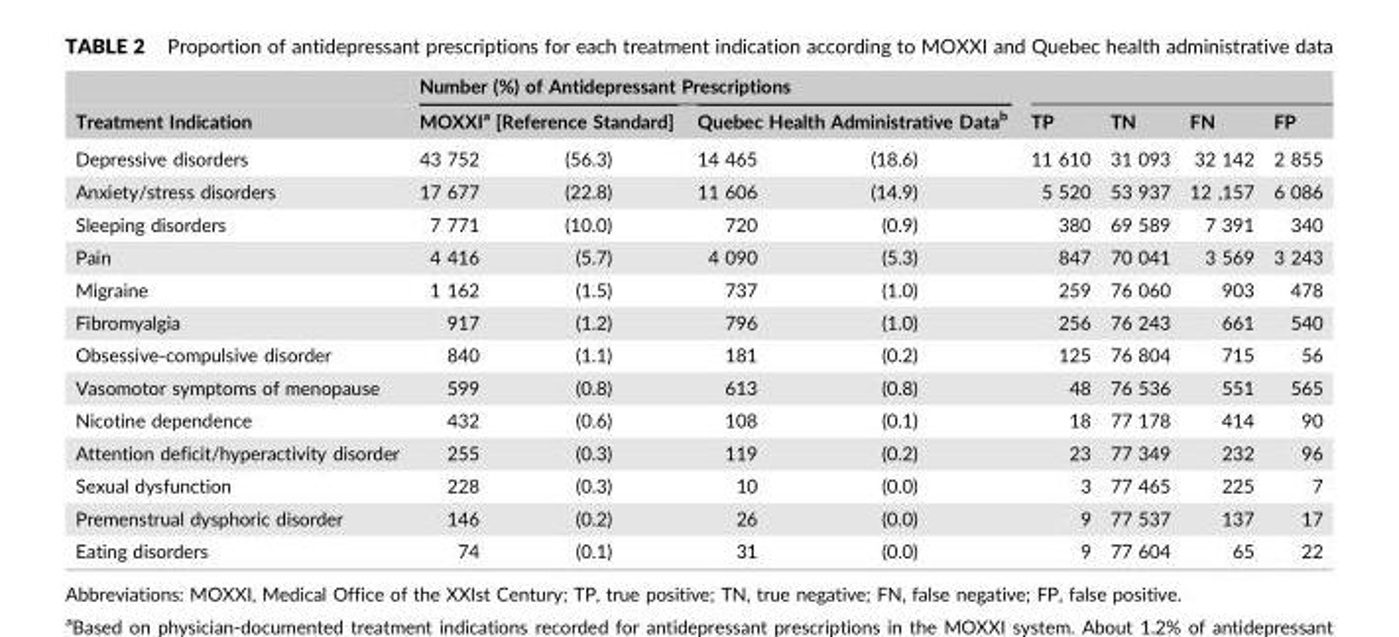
<table><thead><tr><td rowspan="3">Treatment Indication Depressive disorders</td><td colspan="4">Number (%) of Antidepressant Prescriptions</td><td rowspan="3">TP 11 610</td><td rowspan="3">TN 31 093</td><td rowspan="3">FN 32 142</td><td rowspan="3">FP 2 855</td></tr><tr><td colspan="2">MOXXI<sup>a</sup> [Reference Standard]</td><td colspan="2">Quebec Health Administrative Data<sup>b</sup></td></tr><tr><td>43 752</td><td>(56.3)</td><td>14 465</td><td>(18.6)</td></tr></thead><tbody><tr><td>Anxiety/stress disorders</td><td>17 677</td><td>(22.8)</td><td>11 606</td><td>(14.9)</td><td>5 520</td><td>53 937</td><td>12 ,157</td><td>6 086</td></tr><tr><td>Sleeping disorders</td><td>7 771</td><td>(10.0)</td><td>720</td><td>(0.9)</td><td>380</td><td>69 589</td><td>7 391</td><td>340</td></tr><tr><td>Pain</td><td>4 416</td><td>(5.7)</td><td>4 090</td><td>(5.3)</td><td>847</td><td>70 041</td><td>3 569</td><td>3 243</td></tr><tr><td>Migraine</td><td>1 162</td><td>(1.5)</td><td>737</td><td>(1.0)</td><td>259</td><td>76 060</td><td>903</td><td>478</td></tr><tr><td>Fibromyalgia</td><td>917</td><td>(1.2)</td><td>796</td><td>(1.0)</td><td>256</td><td>76 243</td><td>661</td><td>540</td></tr><tr><td>Obsessive‐compulsive disorder</td><td>840</td><td>(1.1)</td><td>181</td><td>(0.2)</td><td>125</td><td>76 804</td><td>715</td><td>56</td></tr><tr><td>Vasomotor symptoms of menopause</td><td>599</td><td>(0.8)</td><td>613</td><td>(0.8)</td><td>48</td><td>76 536</td><td>551</td><td>565</td></tr><tr><td>Nicotine dependence</td><td>432</td><td>(0.6)</td><td>108</td><td>(0.1)</td><td>18</td><td>77 178</td><td>414</td><td>90</td></tr><tr><td>Attention deficit/hyperactivity disorder</td><td>255</td><td>(0.3)</td><td>119</td><td>(0.2)</td><td>23</td><td>77 349</td><td>232</td><td>96</td></tr><tr><td>Sexual dysfunction</td><td>228</td><td>(0.3)</td><td>10</td><td>(0.0)</td><td>3</td><td>77 465</td><td>225</td><td>7</td></tr><tr><td>Premenstrual dysphoric disorder</td><td>146</td><td>(0.2)</td><td>26</td><td>(0.0)</td><td>9</td><td>77 537</td><td>137</td><td>17</td></tr><tr><td>Eating disorders</td><td>74</td><td>(0.1)</td><td>31</td><td>(0.0)</td><td>9</td><td>77 604</td><td>65</td><td>22</td></tr></tbody></table>